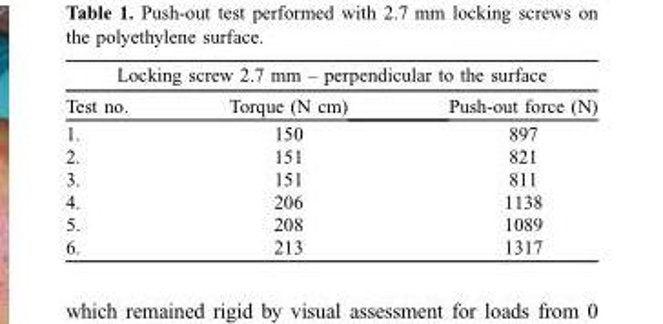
<table><thead><tr><td colspan="3">Locking screw 2.7 mm – perpendicular to the surface</td></tr><tr><td>Test no.</td><td>Torque (N cm)</td><td>Push-out force (N)</td></tr></thead><tbody><tr><td>1.</td><td>150</td><td>897</td></tr><tr><td>2.</td><td>151</td><td>821</td></tr><tr><td>3.</td><td>151</td><td>811</td></tr><tr><td>4.</td><td>206</td><td>1138</td></tr><tr><td>5.</td><td>208</td><td>1089</td></tr><tr><td>6.</td><td>213</td><td>1317</td></tr></tbody></table>